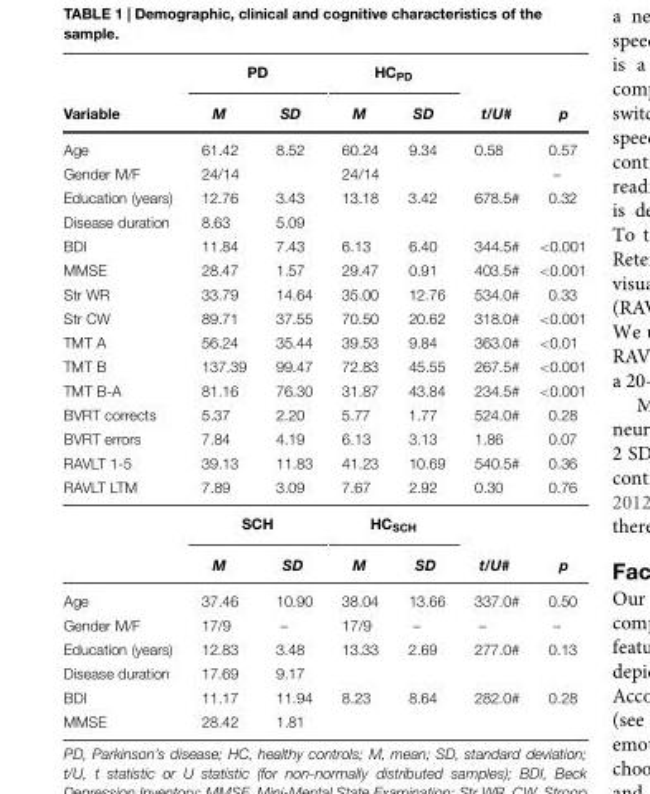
<table><thead><tr><td rowspan="2">Variable</td><td colspan="2">PD</td><td colspan="2">HC<sub>PD</sub></td><td rowspan="2">t/U#</td><td rowspan="2">p</td></tr><tr><td>M</td><td>SD</td><td>M</td><td>SD</td></tr></thead><tbody><tr><td>Age</td><td>61.42</td><td>8.52</td><td>60.24</td><td>9.34</td><td>0.58</td><td>0.57</td></tr><tr><td>Gender M/F</td><td>24/14</td><td></td><td>24/14</td><td></td><td></td><td>–</td></tr><tr><td>Education (years)</td><td>12.76</td><td>3.43</td><td>13.18</td><td>3.42</td><td>678.5#</td><td>0.32</td></tr><tr><td>Disease duration</td><td>8.63</td><td>5.09</td><td></td><td></td><td></td><td></td></tr><tr><td>BDI</td><td>11.84</td><td>7.43</td><td>6.13</td><td>6.40</td><td>344.5#</td><td>&lt;0.001</td></tr><tr><td>MMSE</td><td>28.47</td><td>1.57</td><td>29.47</td><td>0.91</td><td>403.5#</td><td>&lt;0.001</td></tr><tr><td>Str WR</td><td>33.79</td><td>14.64</td><td>35.00</td><td>12.76</td><td>534.0#</td><td>0.33</td></tr><tr><td>Str CW</td><td>89.71</td><td>37.55</td><td>70.50</td><td>20.62</td><td>318.0#</td><td>&lt;0.001</td></tr><tr><td>TMT A</td><td>56.24</td><td>35.44</td><td>39.53</td><td>9.84</td><td>363.0#</td><td>&lt;0.01</td></tr><tr><td>TMT B</td><td>137.39</td><td>99.47</td><td>72.83</td><td>45.55</td><td>267.5#</td><td>&lt;0.001</td></tr><tr><td>TMT B-A</td><td>81.16</td><td>76.30</td><td>31.87</td><td>43.84</td><td>234.5#</td><td>&lt;0.001</td></tr><tr><td>BVRT corrects</td><td>5.37</td><td>2.20</td><td>5.77</td><td>1.77</td><td>524.0#</td><td>0.28</td></tr><tr><td>BVRT errors</td><td>7.84</td><td>4.19</td><td>6.13</td><td>3.13</td><td>1.86</td><td>0.07</td></tr><tr><td>RAVLT 1-5</td><td>39.13</td><td>11.83</td><td>41.23</td><td>10.69</td><td>540.5#</td><td>0.36</td></tr><tr><td rowspan="3">RAVLT LTM</td><td>7.89</td><td>3.09</td><td>7.67</td><td>2.92</td><td>0.30</td><td>0.76</td></tr><tr><td colspan="2">SCH</td><td colspan="2">HC<sub>SCH</sub></td><td></td><td></td></tr><tr><td>M</td><td>SD</td><td>M</td><td>SD</td><td>t/U#</td><td>p</td></tr><tr><td>Age</td><td>37.46</td><td>10.90</td><td>38.04</td><td>13.66</td><td>337.0#</td><td>0.50</td></tr><tr><td>Gender M/F</td><td>17/9</td><td>–</td><td>17/9</td><td>–</td><td>–</td><td>–</td></tr><tr><td>Education (years)</td><td>12.83</td><td>3.48</td><td>13.33</td><td>2.69</td><td>277.0#</td><td>0.13</td></tr><tr><td>Disease duration</td><td>17.69</td><td>9.17</td><td></td><td></td><td></td><td></td></tr><tr><td>BDI</td><td>11.17</td><td>11.94</td><td>8.23</td><td>8.64</td><td>282.0#</td><td>0.28</td></tr><tr><td>MMSE</td><td>28.42</td><td>1.81</td><td></td><td></td><td></td><td></td></tr></tbody></table>